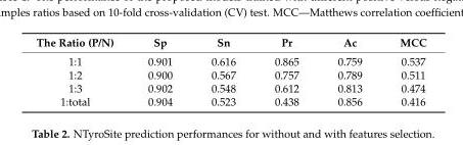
<table><thead><tr><td>The Ratio (P/N)</td><td>Sp</td><td>Sn</td><td>Pr</td><td>Ac</td><td>MCC</td></tr></thead><tbody><tr><td>1:1</td><td>0.901</td><td>0.616</td><td>0.865</td><td>0.759</td><td>0.537</td></tr><tr><td>1:2</td><td>0.900</td><td>0.567</td><td>0.757</td><td>0.789</td><td>0.511</td></tr><tr><td>1:3</td><td>0.902</td><td>0.548</td><td>0.612</td><td>0.813</td><td>0.474</td></tr><tr><td>1:total</td><td>0.904</td><td>0.523</td><td>0.438</td><td>0.856</td><td>0.416</td></tr></tbody></table>